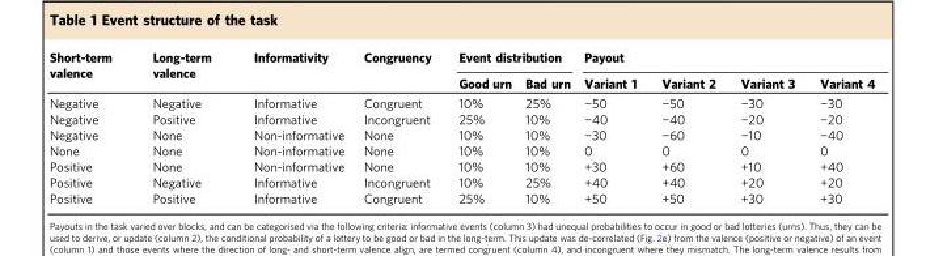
<table><thead><tr><td rowspan="2">Short-term valence</td><td rowspan="2">Long-term valence</td><td rowspan="2">Informativity</td><td rowspan="2">Congruency</td><td colspan="2">Event distribution</td><td colspan="4">Payout</td></tr><tr><td>Good urn</td><td>Bad urn</td><td>Variant 1</td><td>Variant 2</td><td>Variant 3</td><td>Variant 4</td></tr></thead><tbody><tr><td>Negative</td><td>Negative</td><td>Informative</td><td>Congruent</td><td>10%</td><td>25%</td><td>−50</td><td>−50</td><td>−30</td><td>−30</td></tr><tr><td>Negative</td><td>Positive</td><td>Informative</td><td>Incongruent</td><td>25%</td><td>10%</td><td>−40</td><td>−40</td><td>−20</td><td>−20</td></tr><tr><td>Negative</td><td>None</td><td>Non-informative</td><td>None</td><td>10%</td><td>10%</td><td>−30</td><td>−60</td><td>−10</td><td>−40</td></tr><tr><td>None</td><td>None</td><td>Non-informative</td><td>None</td><td>10%</td><td>10%</td><td>0</td><td>0</td><td>0</td><td>0</td></tr><tr><td>Positive</td><td>None</td><td>Non-informative</td><td>None</td><td>10%</td><td>10%</td><td>+30</td><td>+60</td><td>+10</td><td>+40</td></tr><tr><td>Positive</td><td>Negative</td><td>Informative</td><td>Incongruent</td><td>10%</td><td>25%</td><td>+40</td><td>+40</td><td>+20</td><td>+20</td></tr><tr><td>Positive</td><td>Positive</td><td>Informative</td><td>Congruent</td><td>25%</td><td>10%</td><td>+50</td><td>+50</td><td>+30</td><td>+30</td></tr></tbody></table>